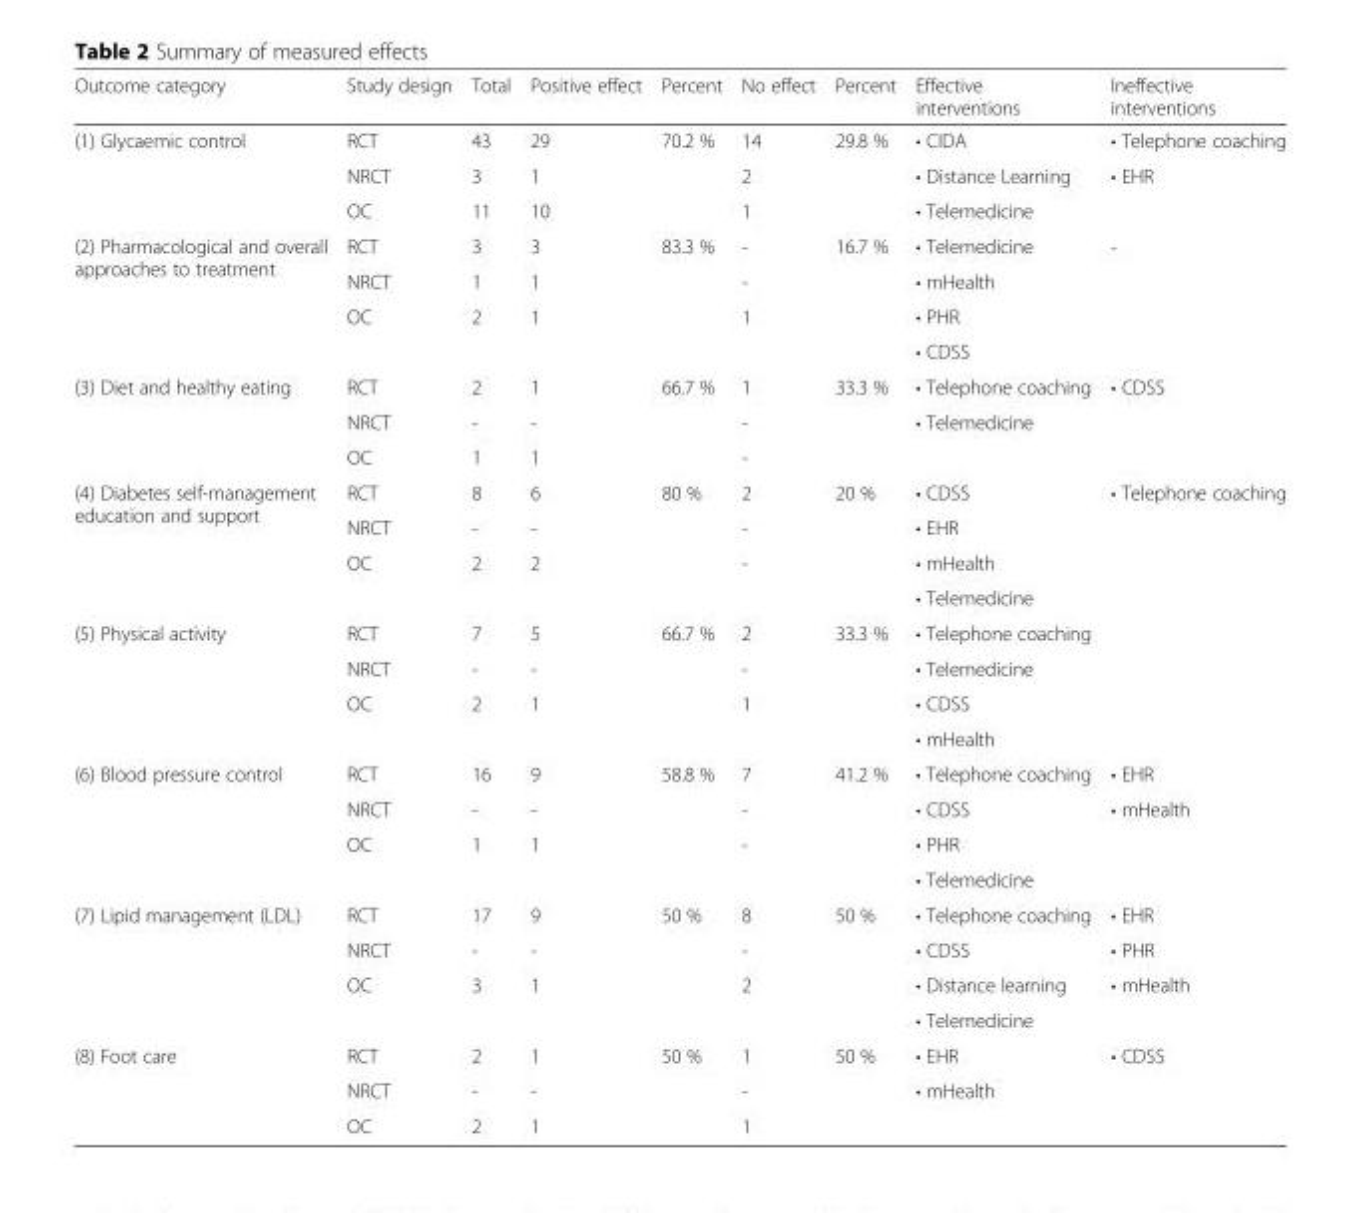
<table><thead><tr><td>Outcome category</td><td>Study design</td><td>Total</td><td>Positive effect</td><td>Percent</td><td>No effect</td><td>Percent</td><td>Effective interventions</td><td>Ineffective interventions</td></tr></thead><tbody><tr><td rowspan="3">(1) Glycaemic control</td><td>RCT</td><td>43</td><td>29</td><td>70.2 %</td><td>14</td><td>29.8 %</td><td>• CIDA</td><td>• Telephone coaching</td></tr><tr><td>NRCT</td><td>3</td><td>1</td><td></td><td>2</td><td></td><td>• Distance Learning</td><td rowspan="2">• EHR</td></tr><tr><td>OC</td><td>11</td><td>10</td><td></td><td>1</td><td></td><td>• Telemedicine</td></tr><tr><td rowspan="4">(2) Pharmacological and overall approaches to treatment</td><td>RCT</td><td>3</td><td>3</td><td>83.3 %</td><td>-</td><td>16.7 %</td><td>• Telemedicine</td><td rowspan="4">-</td></tr><tr><td>NRCT</td><td>1</td><td>1</td><td></td><td>-</td><td></td><td>• mHealth</td></tr><tr><td rowspan="2">OC</td><td rowspan="2">2</td><td rowspan="2">1</td><td rowspan="2"></td><td rowspan="2">1</td><td rowspan="2"></td><td>• PHR</td></tr><tr><td>• CDSS</td></tr><tr><td rowspan="3">(3) Diet and healthy eating</td><td>RCT</td><td>2</td><td>1</td><td>66.7 %</td><td>1</td><td>33.3 %</td><td>• Telephone coaching</td><td rowspan="3">• CDSS</td></tr><tr><td>NRCT</td><td>-</td><td>-</td><td></td><td>-</td><td rowspan="2"></td><td rowspan="2">• Telemedicine</td></tr><tr><td>OC</td><td>1</td><td>1</td><td></td><td>-</td></tr><tr><td rowspan="4">(4) Diabetes self-management education and support</td><td>RCT</td><td>8</td><td>6</td><td>80 %</td><td>2</td><td>20 %</td><td>• CDSS</td><td rowspan="4">• Telephone coaching</td></tr><tr><td>NRCT</td><td>-</td><td>-</td><td></td><td>-</td><td></td><td>• EHR</td></tr><tr><td rowspan="2">OC</td><td rowspan="2">2</td><td rowspan="2">2</td><td rowspan="2"></td><td rowspan="2">-</td><td rowspan="2"></td><td>• mHealth</td></tr><tr><td>• Telemedicine</td></tr><tr><td rowspan="4">(5) Physical activity</td><td>RCT</td><td>7</td><td>5</td><td>66.7 %</td><td>2</td><td>33.3 %</td><td>• Telephone coaching</td><td rowspan="4"></td></tr><tr><td>NRCT</td><td>-</td><td>-</td><td></td><td>-</td><td></td><td>• Telemedicine</td></tr><tr><td rowspan="2">OC</td><td rowspan="2">2</td><td rowspan="2">1</td><td rowspan="2"></td><td rowspan="2">1</td><td rowspan="2"></td><td>• CDSS</td></tr><tr><td>• mHealth</td></tr><tr><td rowspan="4">(6) Blood pressure control</td><td>RCT</td><td>16</td><td>9</td><td>58.8 %</td><td>7</td><td>41.2 %</td><td>• Telephone coaching</td><td>• EHR</td></tr><tr><td>NRCT</td><td>-</td><td>-</td><td></td><td>-</td><td></td><td>• CDSS</td><td rowspan="3">• mHealth</td></tr><tr><td rowspan="2">OC</td><td rowspan="2">1</td><td rowspan="2">1</td><td rowspan="2"></td><td rowspan="2">-</td><td rowspan="2"></td><td>• PHR</td></tr><tr><td>• Telemedicine</td></tr><tr><td rowspan="4">(7) Lipid management (LDL)</td><td>RCT</td><td>17</td><td>9</td><td>50 %</td><td>8</td><td>50 %</td><td>• Telephone coaching</td><td>• EHR</td></tr><tr><td>NRCT</td><td>-</td><td>-</td><td></td><td>-</td><td></td><td>• CDSS</td><td>• PHR</td></tr><tr><td rowspan="2">OC</td><td rowspan="2">3</td><td rowspan="2">1</td><td rowspan="2"></td><td rowspan="2">2</td><td rowspan="2"></td><td>• Distance learning</td><td rowspan="2">• mHealth</td></tr><tr><td>• Telemedicine</td></tr><tr><td rowspan="3">(8) Foot care</td><td>RCT</td><td>2</td><td>1</td><td>50 %</td><td>1</td><td>50 %</td><td>• EHR</td><td rowspan="3">• CDSS</td></tr><tr><td>NRCT</td><td>-</td><td>-</td><td></td><td>-</td><td></td><td rowspan="2">• mHealth</td></tr><tr><td>OC</td><td>2</td><td>1</td><td></td><td>1</td><td></td></tr></tbody></table>